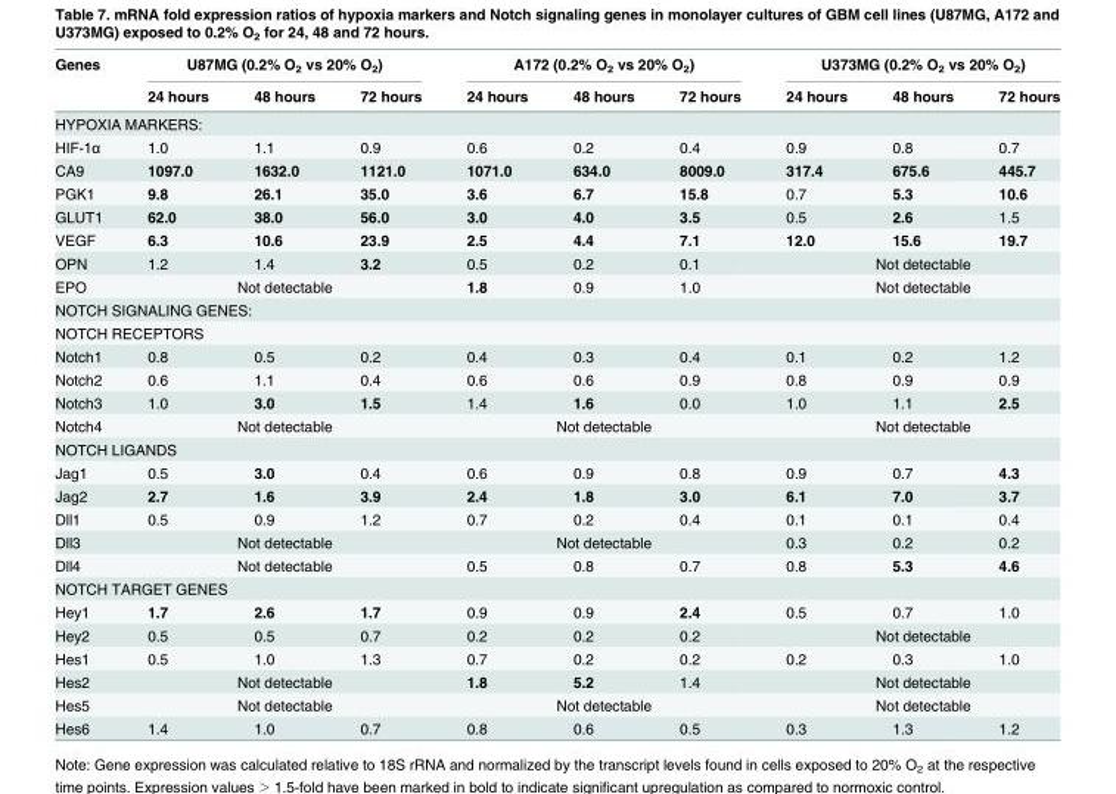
<table><thead><tr><td rowspan="2">Genes</td><td colspan="3">U87MG (0.2% O<sub>2</sub> vs 20% O<sub>2</sub>)</td><td colspan="3">A172 (0.2% O<sub>2</sub> vs 20% O<sub>2</sub>)</td><td colspan="3">U373MG (0.2% O<sub>2</sub> vs 20% O<sub>2</sub>)</td></tr><tr><td>24 hours</td><td>48 hours</td><td>72 hours</td><td>24 hours</td><td>48 hours</td><td>72 hours</td><td>24 hours</td><td>48 hours</td><td>72 hours</td></tr></thead><tbody><tr><td colspan="10">HYPOXIA MARKERS:</td></tr><tr><td>HIF-1α</td><td>1.0</td><td>1.1</td><td>0.9</td><td>0.6</td><td>0.2</td><td>0.4</td><td>0.9</td><td>0.8</td><td>0.7</td></tr><tr><td>CA9</td><td>1097.0</td><td>1632.0</td><td>1121.0</td><td>1071.0</td><td>634.0</td><td>8009.0</td><td>317.4</td><td>675.6</td><td>445.7</td></tr><tr><td>PGK1</td><td>9.8</td><td>26.1</td><td>35.0</td><td>3.6</td><td>6.7</td><td>15.8</td><td>0.7</td><td>5.3</td><td>10.6</td></tr><tr><td>GLUT1</td><td>62.0</td><td>38.0</td><td>56.0</td><td>3.0</td><td>4.0</td><td>3.5</td><td>0.5</td><td>2.6</td><td>1.5</td></tr><tr><td>VEGF</td><td>6.3</td><td>10.6</td><td>23.9</td><td>2.5</td><td>4.4</td><td>7.1</td><td>12.0</td><td>15.6</td><td>19.7</td></tr><tr><td>OPN</td><td>1.2</td><td>1.4</td><td>3.2</td><td>0.5</td><td>0.2</td><td>0.1</td><td colspan="3">Not detectable</td></tr><tr><td>EPO</td><td colspan="3">Not detectable</td><td>1.8</td><td>0.9</td><td>1.0</td><td colspan="3">Not detectable</td></tr><tr><td colspan="10">NOTCH SIGNALING GENES:</td></tr><tr><td colspan="10">NOTCH RECEPTORS</td></tr><tr><td>Notch1</td><td>0.8</td><td>0.5</td><td>0.2</td><td>0.4</td><td>0.3</td><td>0.4</td><td>0.1</td><td>0.2</td><td>1.2</td></tr><tr><td>Notch2</td><td>0.6</td><td>1.1</td><td>0.4</td><td>0.6</td><td>0.6</td><td>0.9</td><td>0.8</td><td>0.9</td><td>0.9</td></tr><tr><td>Notch3</td><td>1.0</td><td>3.0</td><td>1.5</td><td>1.4</td><td>1.6</td><td>0.0</td><td>1.0</td><td>1.1</td><td>2.5</td></tr><tr><td>Notch4</td><td colspan="3">Not detectable</td><td colspan="3">Not detectable</td><td colspan="3">Not detectable</td></tr><tr><td colspan="10">NOTCH LIGANDS</td></tr><tr><td>Jag1</td><td>0.5</td><td>3.0</td><td>0.4</td><td>0.6</td><td>0.9</td><td>0.8</td><td>0.9</td><td>0.7</td><td>4.3</td></tr><tr><td>Jag2</td><td>2.7</td><td>1.6</td><td>3.9</td><td>2.4</td><td>1.8</td><td>3.0</td><td>6.1</td><td>7.0</td><td>3.7</td></tr><tr><td>Dll1</td><td>0.5</td><td>0.9</td><td>1.2</td><td>0.7</td><td>0.2</td><td>0.4</td><td>0.1</td><td>0.1</td><td>0.4</td></tr><tr><td>Dll3</td><td colspan="3">Not detectable</td><td colspan="3">Not detectable</td><td>0.3</td><td>0.2</td><td>0.2</td></tr><tr><td>Dll4</td><td colspan="3">Not detectable</td><td>0.5</td><td>0.8</td><td>0.7</td><td>0.8</td><td>5.3</td><td>4.6</td></tr><tr><td colspan="10">NOTCH TARGET GENES</td></tr><tr><td>Hey1</td><td>1.7</td><td>2.6</td><td>1.7</td><td>0.9</td><td>0.9</td><td>2.4</td><td>0.5</td><td>0.7</td><td>1.0</td></tr><tr><td>Hey2</td><td>0.5</td><td>0.5</td><td>0.7</td><td>0.2</td><td>0.2</td><td>0.2</td><td colspan="3">Not detectable</td></tr><tr><td>Hes1</td><td>0.5</td><td>1.0</td><td>1.3</td><td>0.7</td><td>0.2</td><td>0.2</td><td>0.2</td><td>0.3</td><td>1.0</td></tr><tr><td>Hes2</td><td colspan="3">Not detectable</td><td>1.8</td><td>5.2</td><td>1.4</td><td colspan="3">Not detectable</td></tr><tr><td>Hes5</td><td colspan="3">Not detectable</td><td colspan="3">Not detectable</td><td colspan="3">Not detectable</td></tr><tr><td>Hes6</td><td>1.4</td><td>1.0</td><td>0.7</td><td>0.8</td><td>0.6</td><td>0.5</td><td>0.3</td><td>1.3</td><td>1.2</td></tr></tbody></table>